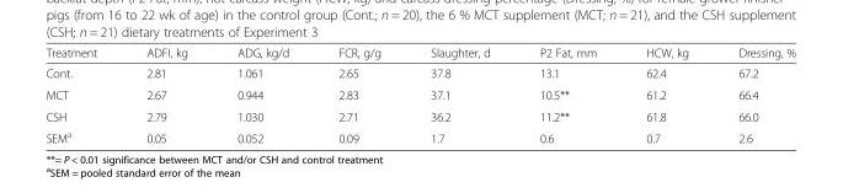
<table><thead><tr><td>Treatment</td><td>ADFI, kg</td><td>ADG, kg/d</td><td>FCR, g/g</td><td>Slaughter, d</td><td>P2 Fat, mm</td><td>HCW, kg</td><td>Dressing, %</td></tr></thead><tbody><tr><td>Cont.</td><td>2.81</td><td>1.061</td><td>2.65</td><td>37.8</td><td>13.1</td><td>62.4</td><td>67.2</td></tr><tr><td>MCT</td><td>2.67</td><td>0.944</td><td>2.83</td><td>37.1</td><td>10.5**</td><td>61.2</td><td>66.4</td></tr><tr><td>CSH</td><td>2.79</td><td>1.030</td><td>2.71</td><td>36.2</td><td>11.2**</td><td>61.8</td><td>66.0</td></tr><tr><td>SEM<sup>a</sup></td><td>0.05</td><td>0.052</td><td>0.09</td><td>1.7</td><td>0.6</td><td>0.7</td><td>2.6</td></tr></tbody></table>